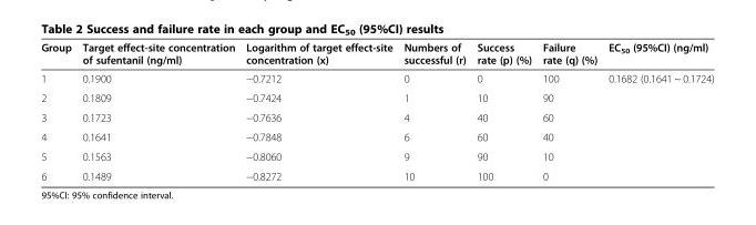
<table><thead><tr><td>Group</td><td>Target effect-site concentration of sufentanil (ng/ml)</td><td>Logarithm of target effect-site concentration (x)</td><td>Numbers of successful (r)</td><td>Success rate (p) (%)</td><td>Failure rate (q) (%)</td><td>EC<sub>50</sub> (95%CI) (ng/ml)</td></tr></thead><tbody><tr><td>1</td><td>0.1900</td><td>−0.7212</td><td>0</td><td>0</td><td>100</td><td rowspan="6">0.1682 (0.1641 ~ 0.1724)</td></tr><tr><td>2</td><td>0.1809</td><td>−0.7424</td><td>1</td><td>10</td><td>90</td></tr><tr><td>3</td><td>0.1723</td><td>−0.7636</td><td>4</td><td>40</td><td>60</td></tr><tr><td>4</td><td>0.1641</td><td>−0.7848</td><td>6</td><td>60</td><td>40</td></tr><tr><td>5</td><td>0.1563</td><td>−0.8060</td><td>9</td><td>90</td><td>10</td></tr><tr><td>6</td><td>0.1489</td><td>−0.8272</td><td>10</td><td>100</td><td>0</td></tr></tbody></table>